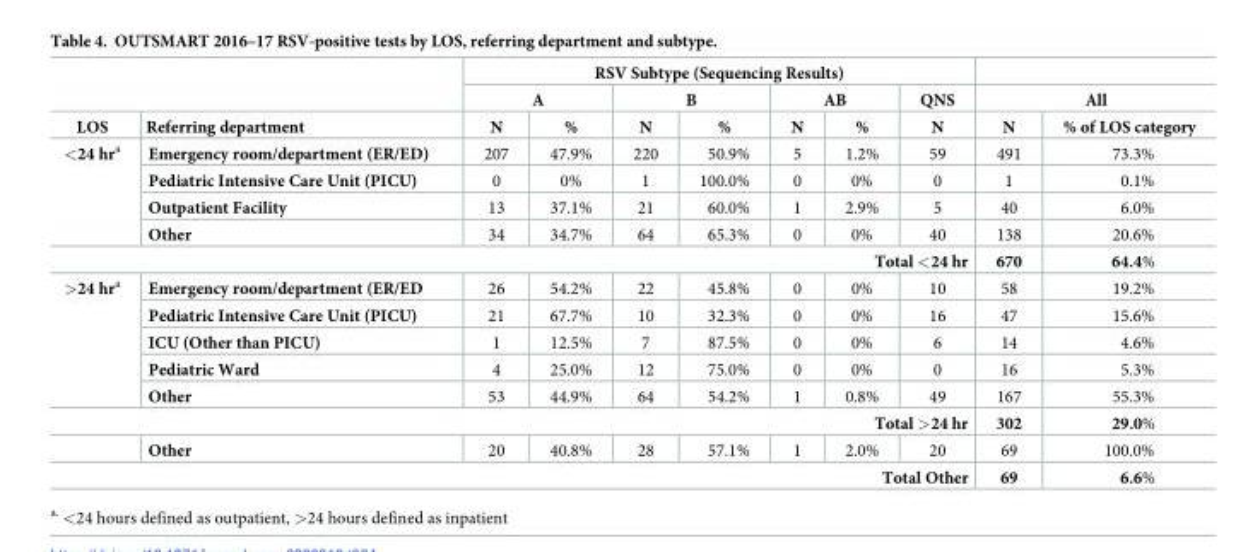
<table><thead><tr><td rowspan="3">LOS</td><td rowspan="3">Referring department</td><td colspan="7">RSV Subtype (Sequencing Results)</td><td></td><td></td></tr><tr><td colspan="2">A</td><td colspan="2">B</td><td colspan="2">AB</td><td rowspan="2">QNS N</td><td colspan="2">All</td></tr><tr><td>N</td><td>%</td><td>N</td><td>%</td><td>N</td><td>%</td><td>N</td><td>% of LOS category</td></tr></thead><tbody><tr><td rowspan="4">&lt;24 hr<sup>a</sup></td><td>Emergency room/department (ER/ED)</td><td>207</td><td>47.9%</td><td>220</td><td>50.9%</td><td>5</td><td>1.2%</td><td>59</td><td>491</td><td>73.3%</td></tr><tr><td>Pediatric Intensive Care Unit (PICU)</td><td>0</td><td>0%</td><td>1</td><td>100.0%</td><td>0</td><td>0%</td><td>0</td><td>1</td><td>0.1%</td></tr><tr><td>Outpatient Facility</td><td>13</td><td>37.1%</td><td>21</td><td>60.0%</td><td>1</td><td>2.9%</td><td>5</td><td>40</td><td>6.0%</td></tr><tr><td>Other</td><td>34</td><td>34.7%</td><td>64</td><td>65.3%</td><td>0</td><td>0%</td><td>40</td><td>138</td><td>20.6%</td></tr><tr><td colspan="9">Total &lt;24 hr</td><td>670</td><td>64.4%</td></tr><tr><td rowspan="5">&gt;24 hr<sup>a</sup></td><td>Emergency room/department (ER/ED</td><td>26</td><td>54.2%</td><td>22</td><td>45.8%</td><td>0</td><td>0%</td><td>10</td><td>58</td><td>19.2%</td></tr><tr><td>Pediatric Intensive Care Unit (PICU)</td><td>21</td><td>67.7%</td><td>10</td><td>32.3%</td><td>0</td><td>0%</td><td>16</td><td>47</td><td>15.6%</td></tr><tr><td>ICU (Other than PICU)</td><td>1</td><td>12.5%</td><td>7</td><td>87.5%</td><td>0</td><td>0%</td><td>6</td><td>14</td><td>4.6%</td></tr><tr><td>Pediatric Ward</td><td>4</td><td>25.0%</td><td>12</td><td>75.0%</td><td>0</td><td>0%</td><td>0</td><td>16</td><td>5.3%</td></tr><tr><td>Other</td><td>53</td><td>44.9%</td><td>64</td><td>54.2%</td><td>1</td><td>0.8%</td><td>49</td><td>167</td><td>55.3%</td></tr><tr><td colspan="9">Total &gt;24 hr</td><td>302</td><td>29.0%</td></tr><tr><td></td><td>Other</td><td>20</td><td>40.8%</td><td>28</td><td>57.1%</td><td>1</td><td>2.0%</td><td>20</td><td>69</td><td>100.0%</td></tr><tr><td colspan="9">Total Other</td><td>69</td><td>6.6%</td></tr></tbody></table>